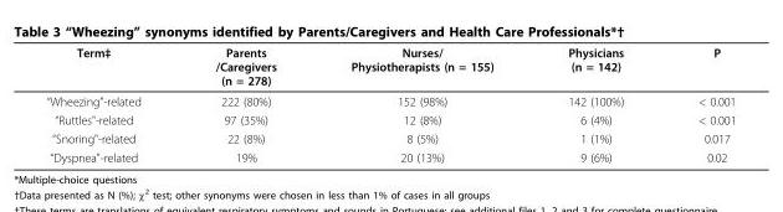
<table><thead><tr><td>Term‡</td><td>Parents /Caregivers (n = 278)</td><td>Nurses/ Physiotherapists (n = 155)</td><td>Physicians (n = 142)</td><td>P</td></tr></thead><tbody><tr><td>“Wheezing&quot;-related</td><td>222 (80%)</td><td>152 (98%)</td><td>142 (100%)</td><td>&lt; 0.001</td></tr><tr><td>“Ruttles&quot;-related</td><td>97 (35%)</td><td>12 (8%)</td><td>6 (4%)</td><td>&lt; 0.001</td></tr><tr><td>“Snoring&quot;-related</td><td>22 (8%)</td><td>8 (5%)</td><td>1 (1%)</td><td>0.017</td></tr><tr><td>“Dyspnea&quot;-related</td><td>19%</td><td>20 (13%)</td><td>9 (6%)</td><td>0.02</td></tr></tbody></table>